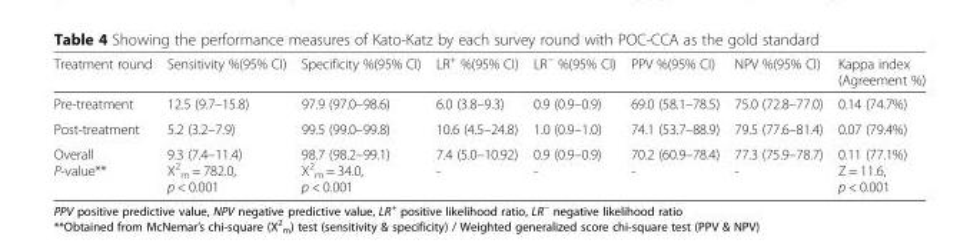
<table><thead><tr><td>Treatment round</td><td>Sensitivity %(95% CI)</td><td>Specificity %(95% CI)</td><td>LR<sup>+</sup> %(95% CI)</td><td>LR<sup>−</sup> %(95% CI)</td><td>PPV %(95% CI)</td><td>NPV %(95% CI)</td><td>Kappa index (Agreement %)</td></tr></thead><tbody><tr><td>Pre-treatment</td><td>12.5 (9.7–15.8)</td><td>97.9 (97.0–98.6)</td><td>6.0 (3.8–9.3)</td><td>0.9 (0.9–0.9)</td><td>69.0 (58.1–78.5)</td><td>75.0 (72.8–77.0)</td><td>0.14 (74.7%)</td></tr><tr><td>Post-treatment</td><td>5.2 (3.2–7.9)</td><td>99.5 (99.0–99.8)</td><td>10.6 (4.5–24.8)</td><td>1.0 (0.9–1.0)</td><td>74.1 (53.7–88.9)</td><td>79.5 (77.6–81.4)</td><td>0.07 (79.4%)</td></tr><tr><td>Overall P-value**</td><td>9.3 (7.4–11.4) Χ<sup>2</sup> <sub>m</sub> = 782.0, p &lt; 0.001</td><td>98.7 (98.2–99.1) Χ<sup>2</sup> <sub>m</sub> = 34.0, p &lt; 0.001</td><td>7.4 (5.0–10.92) -</td><td>0.9 (0.9–0.9) -</td><td>70.2 (60.9–78.4) -</td><td>77.3 (75.9–78.7) -</td><td>0.11 (77.1%) Z = 11.6, p &lt; 0.001</td></tr></tbody></table>